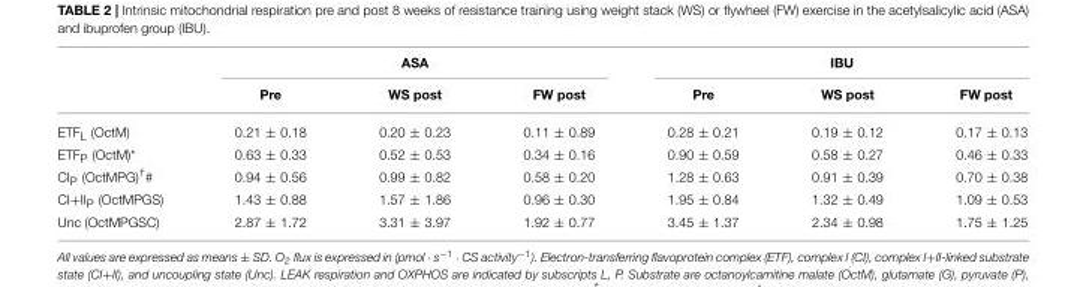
<table><thead><tr><td rowspan="2"></td><td colspan="3">ASA</td><td colspan="3">IBU</td></tr><tr><td>Pre</td><td>WS post</td><td>FW post</td><td>Pre</td><td>WS post</td><td>FW post</td></tr></thead><tbody><tr><td>ETF<sub>L</sub> (OctM)</td><td>0.21 ± 0.18</td><td>0.20 ± 0.23</td><td>0.11 ± 0.89</td><td>0.28 ± 0.21</td><td>0.19 ± 0.12</td><td>0.17 ± 0.13</td></tr><tr><td>ETF<sub>P</sub> (OctM)*</td><td>0.63 ± 0.33</td><td>0.52 ± 0.53</td><td>0.34 ± 0.16</td><td>0.90 ± 0.59</td><td>0.58 ± 0.27</td><td>0.46 ± 0.33</td></tr><tr><td>CI<sub>P</sub> (OctMPG)<sup>†#</sup></td><td>0.94 ± 0.56</td><td>0.99 ± 0.82</td><td>0.58 ± 0.20</td><td>1.28 ± 0.63</td><td>0.91 ± 0.39</td><td>0.70 ± 0.38</td></tr><tr><td>CI+II<sub>P</sub> (OctMPGS)</td><td>1.43 ± 0.88</td><td>1.57 ± 1.86</td><td>0.96 ± 0.30</td><td>1.95 ± 0.84</td><td>1.32 ± 0.49</td><td>1.09 ± 0.53</td></tr><tr><td>Unc (OctMPGSC)</td><td>2.87 ± 1.72</td><td>3.31 ± 3.97</td><td>1.92 ± 0.77</td><td>3.45 ± 1.37</td><td>2.34 ± 0.98</td><td>1.75 ± 1.25</td></tr></tbody></table>